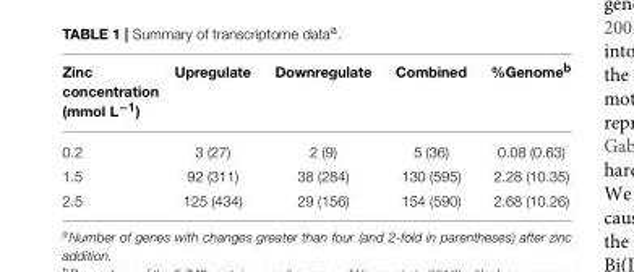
<table><thead><tr><td>Zinc concentration (mmol L<sup>−1</sup>)</td><td>Upregulate</td><td>Downregulate</td><td>Combined</td><td>%Genome<sup>b</sup></td></tr></thead><tbody><tr><td>0.2</td><td>3 (27)</td><td>2 (9)</td><td>5 (36)</td><td>0.08 (0.63)</td></tr><tr><td>1.5</td><td>92 (311)</td><td>38 (284)</td><td>130 (595)</td><td>2.28 (10.35)</td></tr><tr><td>2.5</td><td>125 (434)</td><td>29 (156)</td><td>154 (590)</td><td>2.68 (10.26)</td></tr></tbody></table>